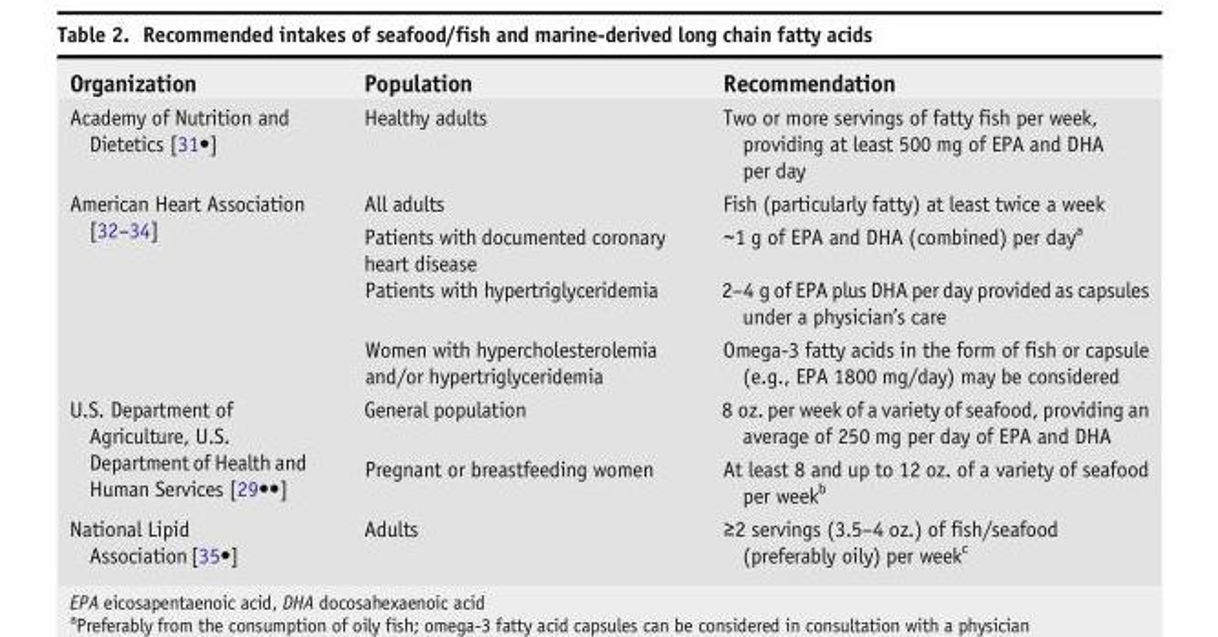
<table><thead><tr><td>Organization</td><td>Population</td><td>Recommendation</td></tr></thead><tbody><tr><td>Academy of Nutrition and Dietetics [31•]</td><td>Healthy adults</td><td>Two or more servings of fatty fish per week, providing at least 500 mg of EPA and DHA per day</td></tr><tr><td rowspan="4">American Heart Association [32–34]</td><td>All adults</td><td>Fish (particularly fatty) at least twice a week</td></tr><tr><td>Patients with documented coronary heart disease</td><td>∼1 g of EPA and DHA (combined) per day<sup>a</sup></td></tr><tr><td>Patients with hypertriglyceridemia</td><td>2–4 g of EPA plus DHA per day provided as capsules under a physician’s care</td></tr><tr><td>Women with hypercholesterolemia and/or hypertriglyceridemia</td><td>Omega-3 fatty acids in the form of fish or capsule (e.g., EPA 1800 mg/day) may be considered</td></tr><tr><td rowspan="2">U.S. Department of Agriculture, U.S. Department of Health and Human Services [29••]</td><td>General population</td><td>8 oz. per week of a variety of seafood, providing an average of 250 mg per day of EPA and DHA</td></tr><tr><td>Pregnant or breastfeeding women</td><td>At least 8 and up to 12 oz. of a variety of seafood per week<sup>b</sup></td></tr><tr><td>National Lipid Association[35•]</td><td>Adults</td><td>≥2 servings (3.5–4 oz.) of fish/seafood (preferably oily) per week<sup>c</sup></td></tr></tbody></table>